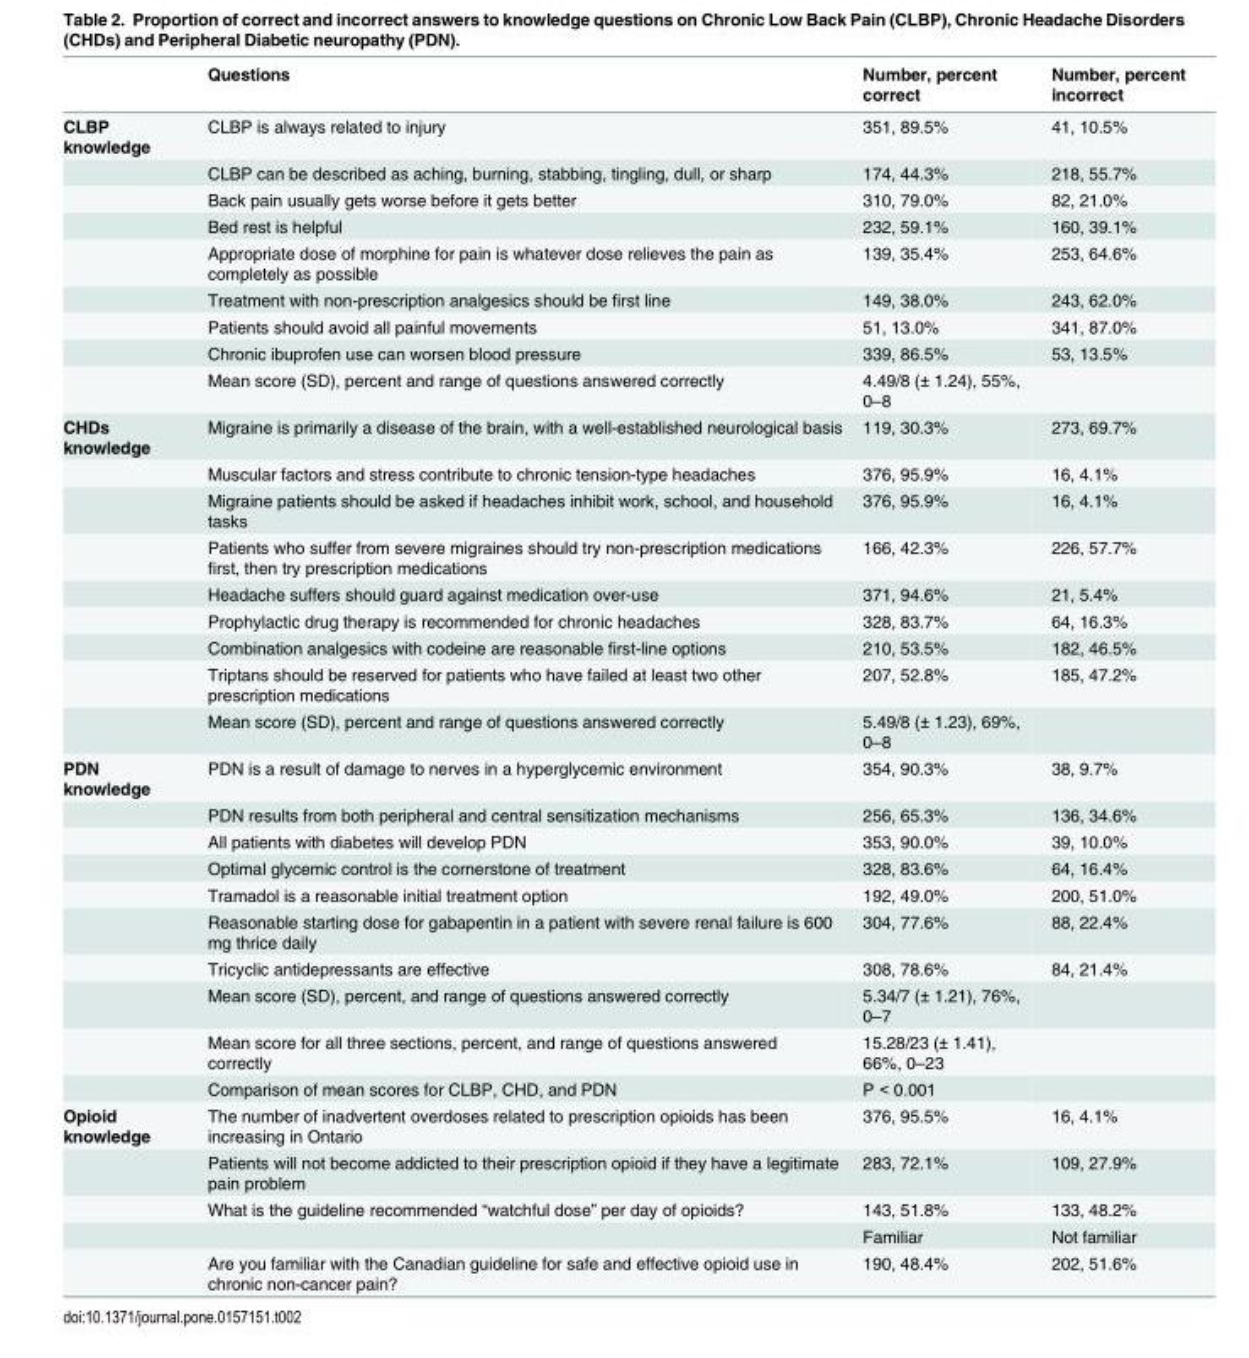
<table><thead><tr><td></td><td>Questions</td><td>Number, percent correct</td><td>Number, percent incorrect</td></tr></thead><tbody><tr><td rowspan="9">CLBP knowledge</td><td>CLBP is always related to injury</td><td>351, 89.5%</td><td>41, 10.5%</td></tr><tr><td>CLBP can be described as aching, burning, stabbing, tingling, dull, or sharp</td><td>174, 44.3%</td><td>218, 55.7%</td></tr><tr><td>Back pain usually gets worse before it gets better</td><td>310, 79.0%</td><td>82, 21.0%</td></tr><tr><td>Bed rest is helpful</td><td>232, 59.1%</td><td>160, 39.1%</td></tr><tr><td>Appropriate dose of morphine for pain is whatever dose relieves the pain as completely as possible</td><td>139, 35.4%</td><td>253, 64.6%</td></tr><tr><td>Treatment with non-prescription analgesics should be first line</td><td>149, 38.0%</td><td>243, 62.0%</td></tr><tr><td>Patients should avoid all painful movements</td><td>51, 13.0%</td><td>341, 87.0%</td></tr><tr><td>Chronic ibuprofen use can worsen blood pressure</td><td>339, 86.5%</td><td>53, 13.5%</td></tr><tr><td>Mean score (SD), percent and range of questions answered correctly</td><td>4.49/8 (± 1.24), 55%, 0–8</td><td></td></tr><tr><td rowspan="9">CHDs knowledge</td><td>Migraine is primarily a disease of the brain, with a well-established neurological basis</td><td>119, 30.3%</td><td>273, 69.7%</td></tr><tr><td>Muscular factors and stress contribute to chronic tension-type headaches</td><td>376, 95.9%</td><td>16, 4.1%</td></tr><tr><td>Migraine patients should be asked if headaches inhibit work, school, and household tasks</td><td>376, 95.9%</td><td>16, 4.1%</td></tr><tr><td>Patients who suffer from severe migraines should try non-prescription medications first, then try prescription medications</td><td>166, 42.3%</td><td>226, 57.7%</td></tr><tr><td>Headache suffers should guard against medication over-use</td><td>371, 94.6%</td><td>21, 5.4%</td></tr><tr><td>Prophylactic drug therapy is recommended for chronic headaches</td><td>328, 83.7%</td><td>64, 16.3%</td></tr><tr><td>Combination analgesics with codeine are reasonable first-line options</td><td>210, 53.5%</td><td>182, 46.5%</td></tr><tr><td>Triptans should be reserved for patients who have failed at least two other prescription medications</td><td>207, 52.8%</td><td>185, 47.2%</td></tr><tr><td>Mean score (SD), percent and range of questions answered correctly</td><td>5.49/8 (± 1.23), 69%, 0–8</td><td></td></tr><tr><td rowspan="10">PDN knowledge</td><td>PDN is a result of damage to nerves in a hyperglycemic environment</td><td>354, 90.3%</td><td>38, 9.7%</td></tr><tr><td>PDN results from both peripheral and central sensitization mechanisms</td><td>256, 65.3%</td><td>136, 34.6%</td></tr><tr><td>All patients with diabetes will develop PDN</td><td>353, 90.0%</td><td>39, 10.0%</td></tr><tr><td>Optimal glycemic control is the cornerstone of treatment</td><td>328, 83.6%</td><td>64, 16.4%</td></tr><tr><td>Tramadol is a reasonable initial treatment option</td><td>192, 49.0%</td><td>200, 51.0%</td></tr><tr><td>Reasonable starting dose for gabapentin in a patient with severe renal failure is 600 mg thrice daily</td><td>304, 77.6%</td><td>88, 22.4%</td></tr><tr><td>Tricyclic antidepressants are effective</td><td>308, 78.6%</td><td>84, 21.4%</td></tr><tr><td>Mean score (SD), percent, and range of questions answered correctly</td><td>5.34/7 (± 1.21), 76%, 0–7</td><td></td></tr><tr><td>Mean score for all three sections, percent, and range of questions answered correctly</td><td>15.28/23 (± 1.41), 66%, 0–23</td><td></td></tr><tr><td>Comparison of mean scores for CLBP, CHD, and PDN</td><td>P &lt; 0.001</td><td></td></tr><tr><td rowspan="5">Opioid knowledge</td><td>The number of inadvertent overdoses related to prescription opioids has been increasing in Ontario</td><td>376, 95.5%</td><td>16, 4.1%</td></tr><tr><td>Patients will not become addicted to their prescription opioid if they have a legitimate pain problem</td><td>283, 72.1%</td><td>109, 27.9%</td></tr><tr><td>What is the guideline recommended “watchful dose” per day of opioids?</td><td>143, 51.8%</td><td>133, 48.2%</td></tr><tr><td></td><td>Familiar</td><td>Not familiar</td></tr><tr><td>Are you familiar with the Canadian guideline for safe and effective opioid use in chronic non-cancer pain?</td><td>190, 48.4%</td><td>202, 51.6%</td></tr></tbody></table>